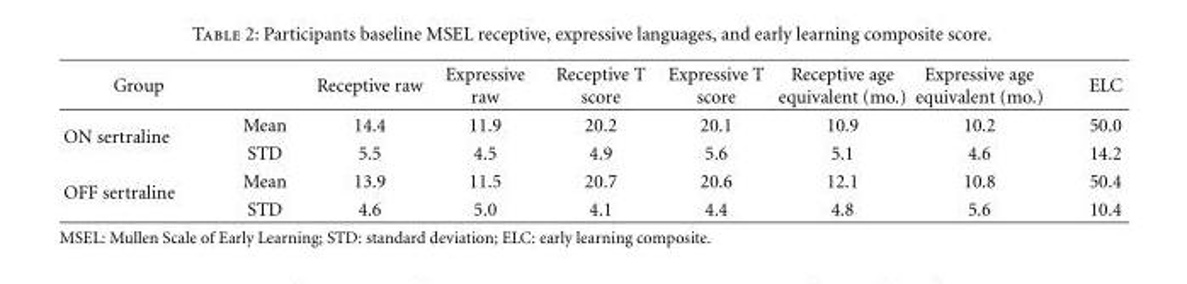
<table><thead><tr><td>Group</td><td></td><td>Receptive raw</td><td>Expressive raw</td><td>Receptive T score</td><td>Expressive T score</td><td>Receptive age equivalent (mo.)</td><td>Expressive age equivalent (mo.)</td><td>ELC</td></tr></thead><tbody><tr><td rowspan="2">ON sertraline</td><td>Mean</td><td>14.4</td><td>11.9</td><td>20.2</td><td>20.1</td><td>10.9</td><td>10.2</td><td>50.0</td></tr><tr><td>STD</td><td>5.5</td><td>4.5</td><td>4.9</td><td>5.6</td><td>5.1</td><td>4.6</td><td>14.2</td></tr><tr><td rowspan="2">OFF sertraline</td><td>Mean</td><td>13.9</td><td>11.5</td><td>20.7</td><td>20.6</td><td>12.1</td><td>10.8</td><td>50.4</td></tr><tr><td>STD</td><td>4.6</td><td>5.0</td><td>4.1</td><td>4.4</td><td>4.8</td><td>5.6</td><td>10.4</td></tr></tbody></table>